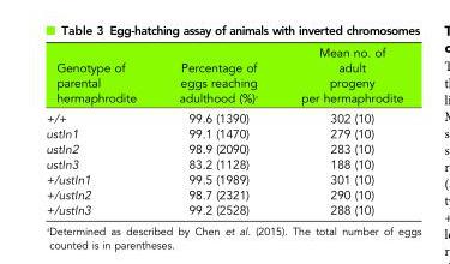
<table><thead><tr><td>Genotype of parental hermaphrodite</td><td>Percentage of eggs reaching adulthood (%)*</td><td>Mean no. of adult progeny per hermaphrodite</td></tr></thead><tbody><tr><td>+/+</td><td>99.6 (1390)</td><td>302 (10)</td></tr><tr><td>ustIn1</td><td>99.1 (1470)</td><td>279 (10)</td></tr><tr><td>ustIn2</td><td>98.9 (2090)</td><td>283 (10)</td></tr><tr><td>ustIn3</td><td>83.2 (1128)</td><td>188 (10)</td></tr><tr><td>+/ustIn1</td><td>99.5 (1989)</td><td>301 (10)</td></tr><tr><td>+/ustIn2</td><td>98.7 (2321)</td><td>290 (10)</td></tr><tr><td>+/ustIn3</td><td>99.2 (2528)</td><td>288 (10)</td></tr></tbody></table>